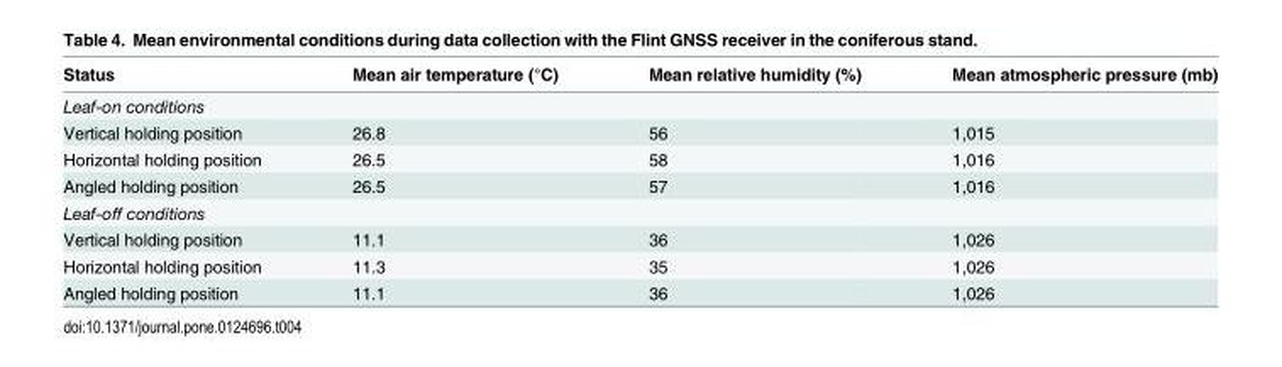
<table><thead><tr><td>Status</td><td>Mean air temperature (°C)</td><td>Mean relative humidity (%)</td><td>Mean atmospheric pressure (mb)</td></tr></thead><tbody><tr><td colspan="4">Leaf-on conditions</td></tr><tr><td>Vertical holding position</td><td>26.8</td><td>56</td><td>1,015</td></tr><tr><td>Horizontal holding position</td><td>26.5</td><td>58</td><td>1,016</td></tr><tr><td>Angled holding position</td><td>26.5</td><td>57</td><td>1,016</td></tr><tr><td colspan="4">Leaf-off conditions</td></tr><tr><td>Vertical holding position</td><td>11.1</td><td>36</td><td>1,026</td></tr><tr><td>Horizontal holding position</td><td>11.3</td><td>35</td><td>1,026</td></tr><tr><td>Angled holding position</td><td>11.1</td><td>36</td><td>1,026</td></tr></tbody></table>